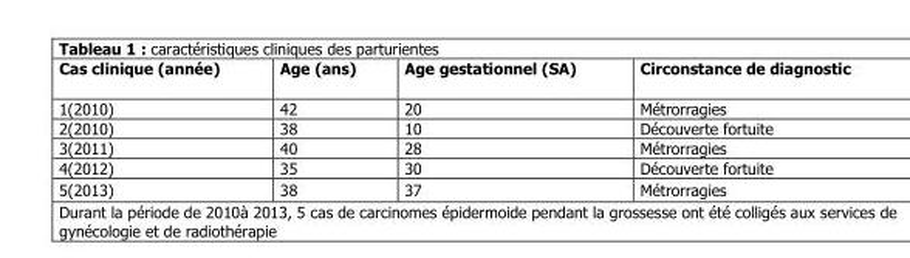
<table><thead><tr><td>Cas clinique (année)</td><td>Age (ans)</td><td>Age gestationnel (SA)</td><td>Circonstance de diagnostic</td></tr></thead><tbody><tr><td>1(2010)</td><td>42</td><td>20</td><td>Métrorragies</td></tr><tr><td>2(2010)</td><td>38</td><td>10</td><td>Découverte fortuite</td></tr><tr><td>3(2011)</td><td>40</td><td>28</td><td>Métrorragies</td></tr><tr><td>4(2012)</td><td>35</td><td>30</td><td>Découverte fortuite</td></tr><tr><td>5(2013)</td><td>38</td><td>37</td><td>Métrorragies</td></tr></tbody></table>